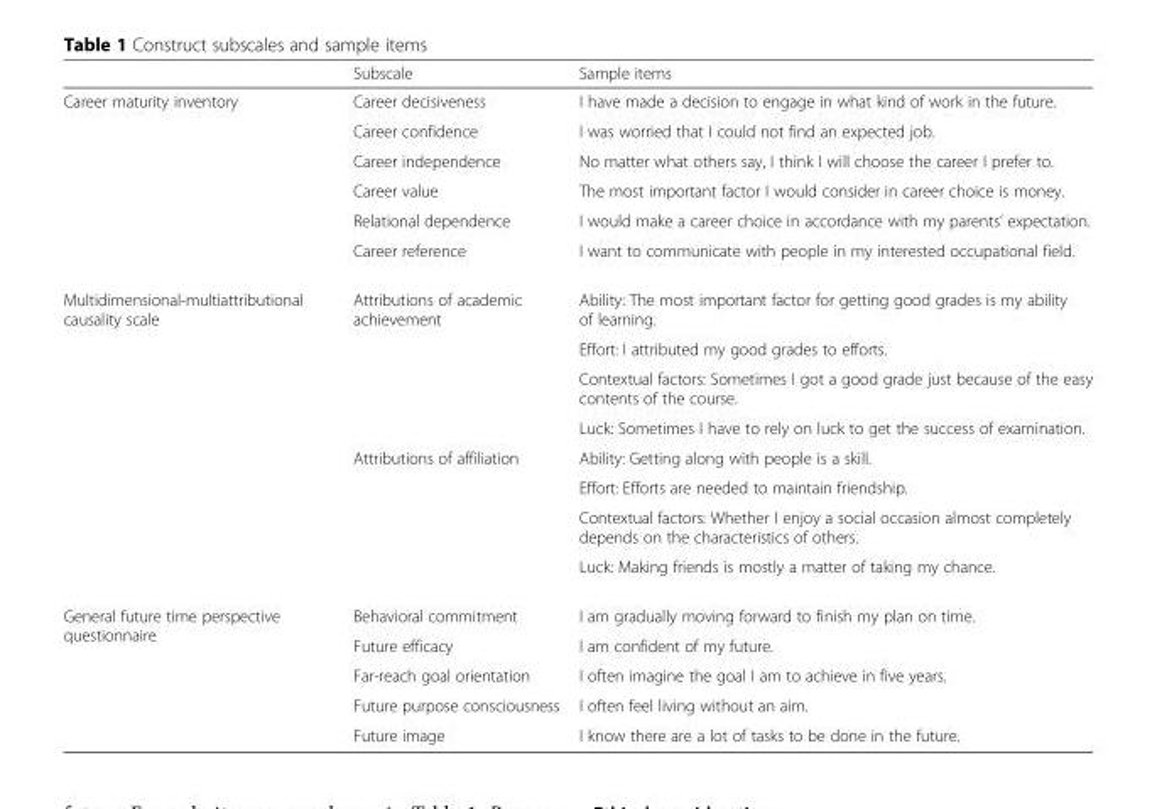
<table><thead><tr><td></td><td>Subscale</td><td>Sample items</td></tr></thead><tbody><tr><td rowspan="6">Career maturity inventory</td><td>Career decisiveness</td><td>I have made a decision to engage in what kind of work in the future.</td></tr><tr><td>Career confidence</td><td>I was worried that I could not find an expected job.</td></tr><tr><td>Career independence</td><td>No matter what others say, I think I will choose the career I prefer to.</td></tr><tr><td>Career value</td><td>The most important factor I would consider in career choice is money.</td></tr><tr><td>Relational dependence</td><td>I would make a career choice in accordance with my parents’ expectation.</td></tr><tr><td>Career reference</td><td>I want to communicate with people in my interested occupational field.</td></tr><tr><td rowspan="8">Multidimensional-multiattributional causality scale</td><td>Attributions of academic achievement</td><td>Ability: The most important factor for getting good grades is my ability of learning.</td></tr><tr><td></td><td>Effort: I attributed my good grades to efforts.</td></tr><tr><td></td><td>Contextual factors: Sometimes I got a good grade just because of the easy contents of the course.</td></tr><tr><td></td><td>Luck: Sometimes I have to rely on luck to get the success of examination.</td></tr><tr><td>Attributions of affiliation</td><td>Ability: Getting along with people is a skill.</td></tr><tr><td></td><td>Effort: Efforts are needed to maintain friendship.</td></tr><tr><td></td><td>Contextual factors: Whether I enjoy a social occasion almost completely depends on the characteristics of others.</td></tr><tr><td></td><td>Luck: Making friends is mostly a matter of taking my chance.</td></tr><tr><td rowspan="5">General future time perspective questionnaire</td><td>Behavioral commitment</td><td>I am gradually moving forward to finish my plan on time.</td></tr><tr><td>Future efficacy</td><td>I am confident of my future.</td></tr><tr><td>Far-reach goal orientation</td><td>I often imagine the goal I am to achieve in five years.</td></tr><tr><td>Future purpose consciousness</td><td>I often feel living without an aim.</td></tr><tr><td>Future image</td><td>I know there are a lot of tasks to be done in the future.</td></tr></tbody></table>